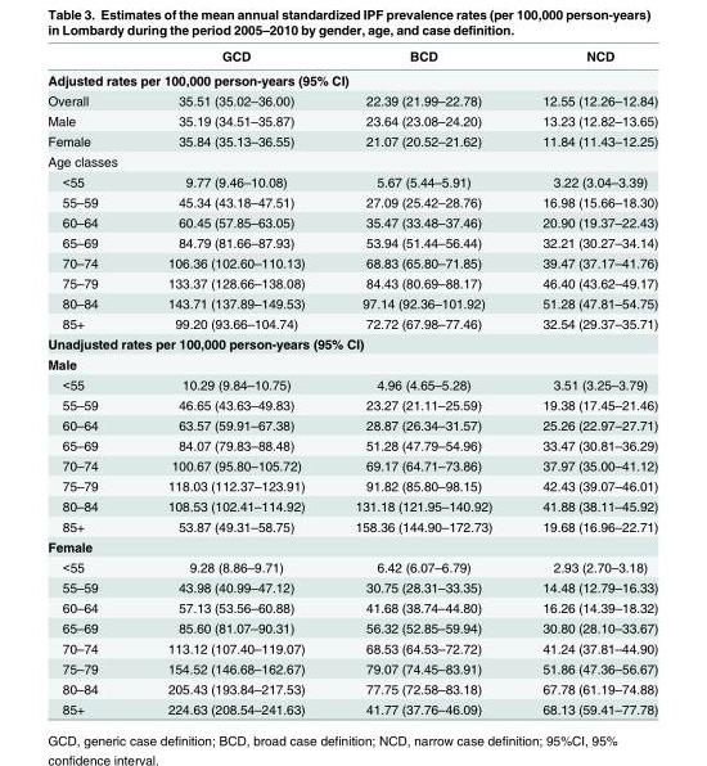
<table><thead><tr><td></td><td>GCD</td><td>BCD</td><td>NCD</td></tr></thead><tbody><tr><td colspan="4">Adjusted rates per 100,000 person-years (95% CI)</td></tr><tr><td>Overall</td><td>35.51 (35.02–36.00)</td><td>22.39 (21.99–22.78)</td><td>12.55 (12.26–12.84)</td></tr><tr><td>Male</td><td>35.19 (34.51–35.87)</td><td>23.64 (23.08–24.20)</td><td>13.23 (12.82–13.65)</td></tr><tr><td>Female</td><td>35.84 (35.13–36.55)</td><td>21.07 (20.52–21.62)</td><td>11.84 (11.43–12.25)</td></tr><tr><td colspan="4">Age classes</td></tr><tr><td>&lt;55</td><td>9.77 (9.46–10.08)</td><td>5.67 (5.44–5.91)</td><td>3.22 (3.04–3.39)</td></tr><tr><td>55–59</td><td>45.34 (43.18–47.51)</td><td>27.09 (25.42–28.76)</td><td>16.98 (15.66–18.30)</td></tr><tr><td>60–64</td><td>60.45 (57.85–63.05)</td><td>35.47 (33.48–37.46)</td><td>20.90 (19.37–22.43)</td></tr><tr><td>65–69</td><td>84.79 (81.66–87.93)</td><td>53.94 (51.44–56.44)</td><td>32.21 (30.27–34.14)</td></tr><tr><td>70–74</td><td>106.36 (102.60–110.13)</td><td>68.83 (65.80–71.85)</td><td>39.47 (37.17–41.76)</td></tr><tr><td>75–79</td><td>133.37 (128.66–138.08)</td><td>84.43 (80.69–88.17)</td><td>46.40 (43.62–49.17)</td></tr><tr><td>80–84</td><td>143.71 (137.89–149.53)</td><td>97.14 (92.36–101.92)</td><td>51.28 (47.81–54.75)</td></tr><tr><td>85+</td><td>99.20 (93.66–104.74)</td><td>72.72 (67.98–77.46)</td><td>32.54 (29.37–35.71)</td></tr><tr><td colspan="4">Unadjusted rates per 100,000 person-years (95% CI)</td></tr><tr><td colspan="4">Male</td></tr><tr><td>&lt;55</td><td>10.29 (9.84–10.75)</td><td>4.96 (4.65–5.28)</td><td>3.51 (3.25–3.79)</td></tr><tr><td>55–59</td><td>46.65 (43.63–49.83)</td><td>23.27 (21.11–25.59)</td><td>19.38 (17.45–21.46)</td></tr><tr><td>60–64</td><td>63.57 (59.91–67.38)</td><td>28.87 (26.34–31.57)</td><td>25.26 (22.97–27.71)</td></tr><tr><td>65–69</td><td>84.07 (79.83–88.48)</td><td>51.28 (47.79–54.96)</td><td>33.47 (30.81–36.29)</td></tr><tr><td>70–74</td><td>100.67 (95.80–105.72)</td><td>69.17 (64.71–73.86)</td><td>37.97 (35.00–41.12)</td></tr><tr><td>75–79</td><td>118.03 (112.37–123.91)</td><td>91.82 (85.80–98.15)</td><td>42.43 (39.07–46.01)</td></tr><tr><td>80–84</td><td>108.53 (102.41–114.92)</td><td>131.18 (121.95–140.92)</td><td>41.88 (38.11–45.92)</td></tr><tr><td>85+</td><td>53.87 (49.31–58.75)</td><td>158.36 (144.90–172.73)</td><td>19.68 (16.96–22.71)</td></tr><tr><td colspan="4">Female</td></tr><tr><td>&lt;55</td><td>9.28 (8.86–9.71)</td><td>6.42 (6.07–6.79)</td><td>2.93 (2.70–3.18)</td></tr><tr><td>55–59</td><td>43.98 (40.99–47.12)</td><td>30.75 (28.31–33.35)</td><td>14.48 (12.79–16.33)</td></tr><tr><td>60–64</td><td>57.13 (53.56–60.88)</td><td>41.68 (38.74–44.80)</td><td>16.26 (14.39–18.32)</td></tr><tr><td>65–69</td><td>85.60 (81.07–90.31)</td><td>56.32 (52.85–59.94)</td><td>30.80 (28.10–33.67)</td></tr><tr><td>70–74</td><td>113.12 (107.40–119.07)</td><td>68.53 (64.53–72.72)</td><td>41.24 (37.81–44.90)</td></tr><tr><td>75–79</td><td>154.52 (146.68–162.67)</td><td>79.07 (74.45–83.91)</td><td>51.86 (47.36–56.67)</td></tr><tr><td>80–84</td><td>205.43 (193.84–217.53)</td><td>77.75 (72.58–83.18)</td><td>67.78 (61.19–74.88)</td></tr><tr><td>85+</td><td>224.63 (208.54–241.63)</td><td>41.77 (37.76–46.09)</td><td>68.13 (59.41–77.78)</td></tr></tbody></table>